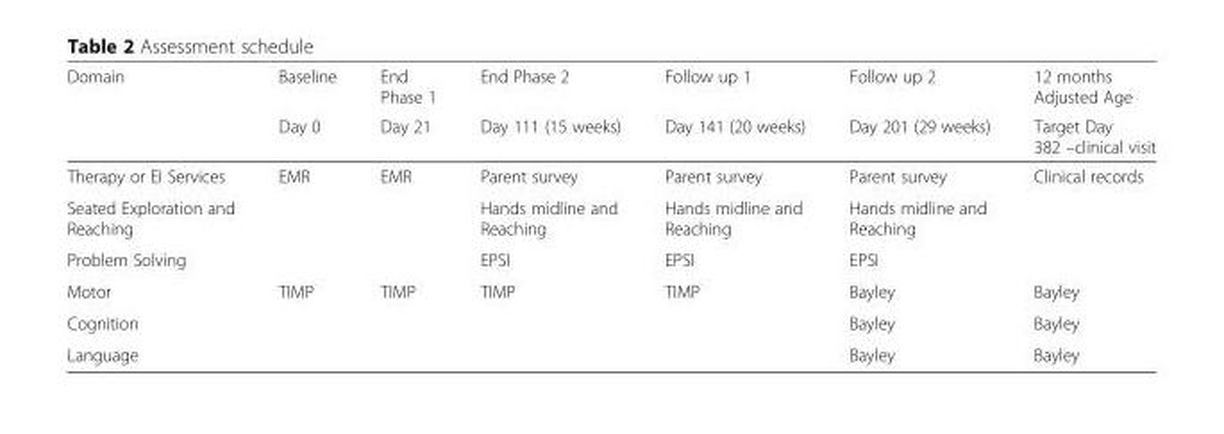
<table><thead><tr><td rowspan="2">Domain</td><td rowspan="2">Baseline Day 0</td><td rowspan="2">End Phase 1 Day 21</td><td rowspan="2">End Phase 2 Day 111 (15 weeks)</td><td rowspan="2">Follow up 1 Day 141 (20 weeks)</td><td rowspan="2">Follow up 2 Day 201 (29 weeks)</td><td rowspan="2">12 months Adjusted Age Target Day 382 –clinical visit</td></tr><tr></tr></thead><tbody><tr><td>Therapy or EI Services</td><td>EMR</td><td>EMR</td><td>Parent survey</td><td>Parent survey</td><td>Parent survey</td><td>Clinical records</td></tr><tr><td>Seated Exploration and Reaching</td><td></td><td></td><td>Hands midline and Reaching</td><td>Hands midline and Reaching</td><td>Hands midline and Reaching</td><td></td></tr><tr><td>Problem Solving</td><td></td><td></td><td>EPSI</td><td>EPSI</td><td>EPSI</td><td></td></tr><tr><td>Motor</td><td>TIMP</td><td>TIMP</td><td>TIMP</td><td>TIMP</td><td>Bayley</td><td>Bayley</td></tr><tr><td>Cognition</td><td></td><td></td><td></td><td></td><td>Bayley</td><td>Bayley</td></tr><tr><td>Language</td><td></td><td></td><td></td><td></td><td>Bayley</td><td>Bayley</td></tr></tbody></table>